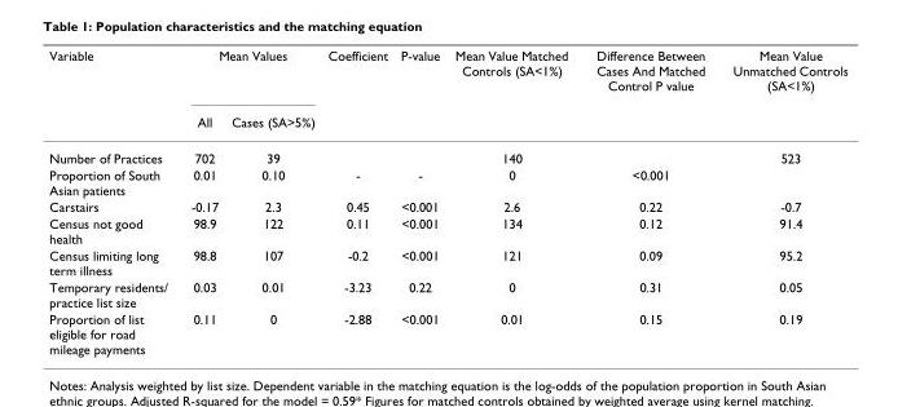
<table><thead><tr><td rowspan="2">Variable</td><td colspan="2">Mean Values</td><td rowspan="2">Coefficient</td><td rowspan="2">P-value</td><td rowspan="2">Mean Value Matched Controls (SA&lt;1%)</td><td rowspan="2">Difference Between Cases And Matched Control P value</td><td rowspan="2">Mean Value Unmatched Controls (SA&lt;1%)</td></tr><tr><td>All</td><td>Cases (SA&gt;5%)</td></tr></thead><tbody><tr><td>Number of Practices</td><td>702</td><td>39</td><td></td><td></td><td>140</td><td></td><td>523</td></tr><tr><td>Proportion of South Asian patients</td><td>0.01</td><td>0.10</td><td>-</td><td>-</td><td>0</td><td>&lt;0.001</td><td></td></tr><tr><td>Carstairs</td><td>-0.17</td><td>2.3</td><td>0.45</td><td>&lt;0.001</td><td>2.6</td><td>0.22</td><td>-0.7</td></tr><tr><td>Census not good health</td><td>98.9</td><td>122</td><td>0.11</td><td>&lt;0.001</td><td>134</td><td>0.12</td><td>91.4</td></tr><tr><td>Census limiting long term illness</td><td>98.8</td><td>107</td><td>-0.2</td><td>&lt;0.001</td><td>121</td><td>0.09</td><td>95.2</td></tr><tr><td>Temporary residents/ practice list size</td><td>0.03</td><td>0.01</td><td>-3.23</td><td>0.22</td><td>0</td><td>0.31</td><td>0.05</td></tr><tr><td>Proportion of list eligible for road mileage payments</td><td>0.11</td><td>0</td><td>-2.88</td><td>&lt;0.001</td><td>0.01</td><td>0.15</td><td>0.19</td></tr></tbody></table>